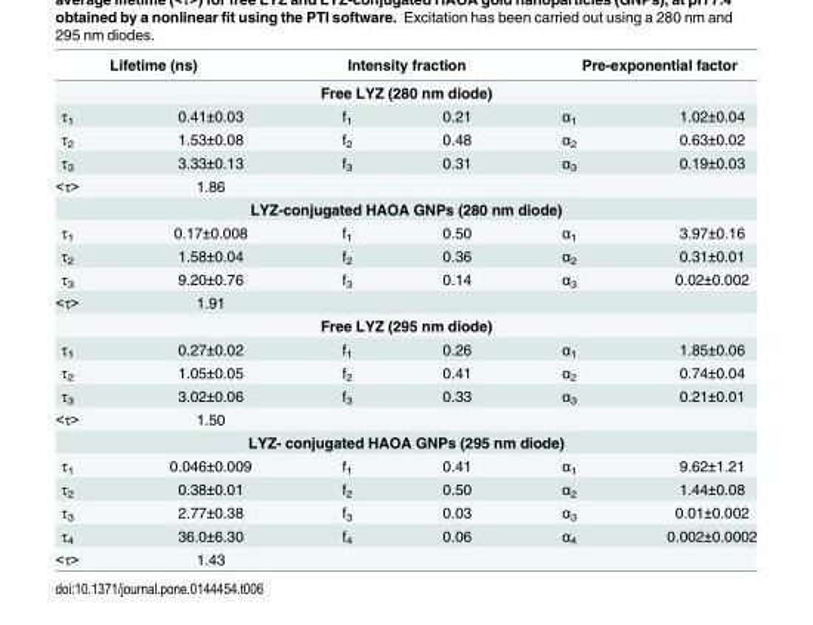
<table><thead><tr><td colspan="2">Lifetime (ns)</td><td colspan="2">Intensity fraction</td><td colspan="2">Pre-exponential factor</td></tr><tr><td colspan="6">Free LYZ (280 nm diode)</td></tr><tr><td>τ<sub>1</sub></td><td>0.41±0.03</td><td>f<sub>1</sub></td><td>0.21</td><td>α<sub>1</sub></td><td>1.02±0.04</td></tr></thead><tbody><tr><td>τ<sub>2</sub></td><td>1.53±0.08</td><td>f<sub>2</sub></td><td>0.48</td><td>α<sub>2</sub></td><td>0.63±0.02</td></tr><tr><td>τ<sub>3</sub></td><td>3.33±0.13</td><td>f<sub>3</sub></td><td>0.31</td><td>α<sub>3</sub></td><td>0.19±0.03</td></tr><tr><td>&lt;τ&gt;</td><td>1.86</td><td></td><td></td><td></td><td></td></tr><tr><td colspan="6">LYZ-conjugated HAOA GNPs (280 nm diode)</td></tr><tr><td>τ<sub>1</sub></td><td>0.17±0.008</td><td>f<sub>1</sub></td><td>0.50</td><td>α<sub>1</sub></td><td>3.97±0.16</td></tr><tr><td>τ<sub>2</sub></td><td>1.58±0.04</td><td>f<sub>2</sub></td><td>0.36</td><td>α<sub>2</sub></td><td>0.31±0.01</td></tr><tr><td>τ<sub>3</sub></td><td>9.20±0.76</td><td>f<sub>3</sub></td><td>0.14</td><td>α<sub>3</sub></td><td>0.02±0.002</td></tr><tr><td>&lt;τ&gt;</td><td>1.91</td><td></td><td></td><td></td><td></td></tr><tr><td colspan="6">Free LYZ (295 nm diode)</td></tr><tr><td>τ<sub>1</sub></td><td>0.27±0.02</td><td>f<sub>1</sub></td><td>0.26</td><td>α<sub>1</sub></td><td>1.85±0.06</td></tr><tr><td>τ<sub>2</sub></td><td>1.05±0.05</td><td>f<sub>2</sub></td><td>0.41</td><td>α<sub>2</sub></td><td>0.74±0.04</td></tr><tr><td>τ<sub>3</sub></td><td>3.02±0.06</td><td>f<sub>3</sub></td><td>0.33</td><td>α<sub>3</sub></td><td>0.21±0.01</td></tr><tr><td>&lt;τ&gt;</td><td>1.50</td><td></td><td></td><td></td><td></td></tr><tr><td colspan="6">LYZ- conjugated HAOA GNPs (295 nm diode)</td></tr><tr><td>τ<sub>1</sub></td><td>0.046±0.009</td><td>f<sub>1</sub></td><td>0.41</td><td>α<sub>1</sub></td><td>9.62±1.21</td></tr><tr><td>τ<sub>2</sub></td><td>0.38±0.01</td><td>f<sub>2</sub></td><td>0.50</td><td>α<sub>2</sub></td><td>1.44±0.08</td></tr><tr><td>τ<sub>3</sub></td><td>2.77±0.38</td><td>f<sub>3</sub></td><td>0.03</td><td>α<sub>3</sub></td><td>0.01±0.002</td></tr><tr><td>τ<sub>4</sub></td><td>36.0±6.30</td><td>f<sub>4</sub></td><td>0.06</td><td>α<sub>4</sub></td><td>0.002±0.0002</td></tr><tr><td>&lt;τ&gt;</td><td>1.43</td><td></td><td></td><td></td><td></td></tr></tbody></table>